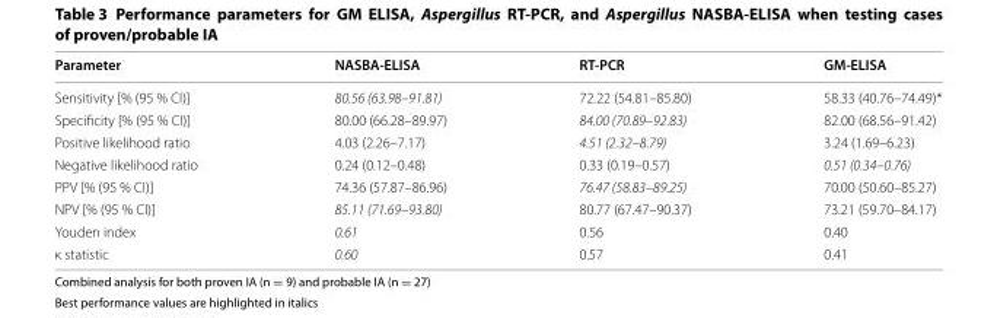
<table><thead><tr><td>Parameter</td><td>NASBA‑ELISA</td><td>RT‑PCR</td><td>GM‑ELISA</td></tr></thead><tbody><tr><td>Sensitivity [% (95 % CI)]</td><td>80.56 (63.98–91.81)</td><td>72.22 (54.81–85.80)</td><td>58.33 (40.76–74.49)*</td></tr><tr><td>Specificity [% (95 % CI)]</td><td>80.00 (66.28–89.97)</td><td>84.00 (70.89–92.83)</td><td>82.00 (68.56–91.42)</td></tr><tr><td>Positive likelihood ratio</td><td>4.03 (2.26–7.17)</td><td>4.51 (2.32–8.79)</td><td>3.24 (1.69–6.23)</td></tr><tr><td>Negative likelihood ratio</td><td>0.24 (0.12–0.48)</td><td>0.33 (0.19–0.57)</td><td>0.51 (0.34–0.76)</td></tr><tr><td>PPV [% (95 % CI)]</td><td>74.36 (57.87–86.96)</td><td>76.47 (58.83–89.25)</td><td>70.00 (50.60–85.27)</td></tr><tr><td>NPV [% (95 % CI)]</td><td>85.11 (71.69–93.80)</td><td>80.77 (67.47–90.37)</td><td>73.21 (59.70–84.17)</td></tr><tr><td>Youden index</td><td>0.61</td><td>0.56</td><td>0.40</td></tr><tr><td>κ statistic</td><td>0.60</td><td>0.57</td><td>0.41</td></tr></tbody></table>